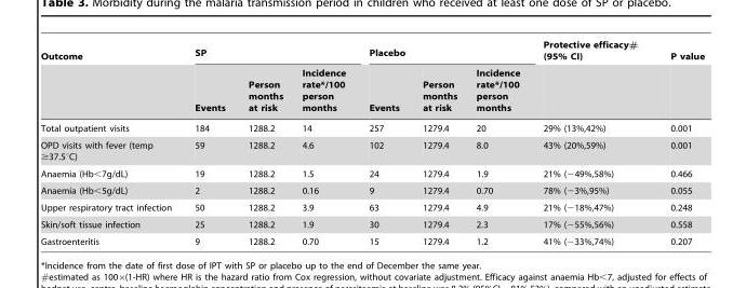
<table><thead><tr><td rowspan="2">Outcome</td><td colspan="3">SP</td><td colspan="3">Placebo</td><td rowspan="2">Protective efficacy# (95% CI)</td><td rowspan="2">P value</td></tr><tr><td>Events</td><td>Person months at risk</td><td>Incidence rate*/100 person months</td><td>Events</td><td>Person months at risk</td><td>Incidence rate*/100 person months</td></tr></thead><tbody><tr><td>Total outpatient visits</td><td>184</td><td>1288.2</td><td>14</td><td>257</td><td>1279.4</td><td>20</td><td>29% (13%,42%)</td><td>0.001</td></tr><tr><td>OPD visits with fever (temp ≥37.5°C)</td><td>59</td><td>1288.2</td><td>4.6</td><td>102</td><td>1279.4</td><td>8.0</td><td>43% (20%,59%)</td><td>0.001</td></tr><tr><td>Anaemia (Hb&lt;7g/dL)</td><td>19</td><td>1288.2</td><td>1.5</td><td>24</td><td>1279.4</td><td>1.9</td><td>21% (−49%,58%)</td><td>0.466</td></tr><tr><td>Anaemia (Hb&lt;5g/dL)</td><td>2</td><td>1288.2</td><td>0.16</td><td>9</td><td>1279.4</td><td>0.70</td><td>78% (−3%,95%)</td><td>0.055</td></tr><tr><td>Upper respiratory tract infection</td><td>50</td><td>1288.2</td><td>3.9</td><td>63</td><td>1279.4</td><td>4.9</td><td>21% (−18%,47%)</td><td>0.248</td></tr><tr><td>Skin/soft tissue infection</td><td>25</td><td>1288.2</td><td>1.9</td><td>30</td><td>1279.4</td><td>2.3</td><td>17% (−55%,56%)</td><td>0.558</td></tr><tr><td>Gastroenteritis</td><td>9</td><td>1288.2</td><td>0.70</td><td>15</td><td>1279.4</td><td>1.2</td><td>41% (−33%,74%)</td><td>0.207</td></tr></tbody></table>